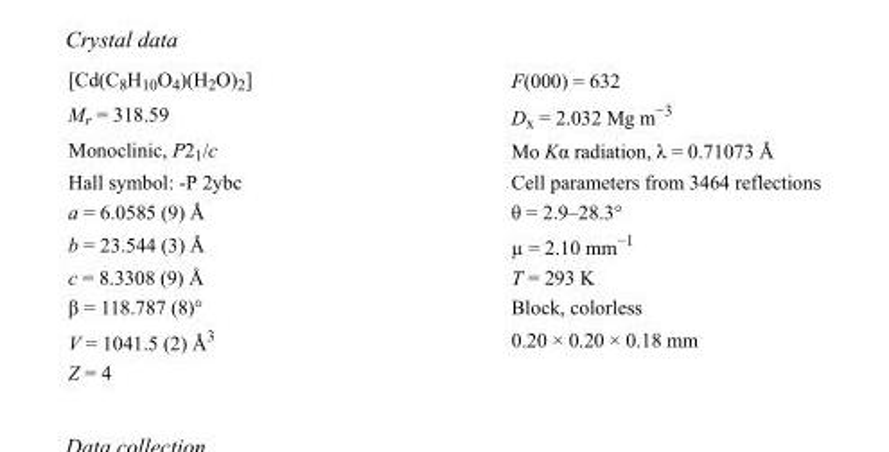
<table><tbody><tr><td>[Cd(C<sub>8</sub>H<sub>10</sub>O<sub>4</sub>)(H<sub>2</sub>O)<sub>2</sub>]</td><td>F(000) = 632</td></tr><tr><td>M<sub>r</sub> = 318.59</td><td>D<sub>x</sub> = 2.032 Mg m<sup>−3</sup></td></tr><tr><td>Monoclinic, P2<sub>1</sub>/c</td><td>Mo Kα radiation, λ = 0.71073 Å</td></tr><tr><td>Hall symbol: -P 2ybc</td><td>Cell parameters from 3464 reflections</td></tr><tr><td>a = 6.0585 (9) Å</td><td>θ = 2.9–28.3°</td></tr><tr><td>b = 23.544 (3) Å</td><td>µ = 2.10 mm<sup>−1</sup></td></tr><tr><td>c = 8.3308 (9) Å</td><td>T = 293 K</td></tr><tr><td>β = 118.787 (8)°</td><td>Block, colorless</td></tr><tr><td>V = 1041.5 (2) Å<sup>3</sup></td><td>0.20 × 0.20 × 0.18 mm</td></tr><tr><td>Z = 4</td><td></td></tr></tbody></table>